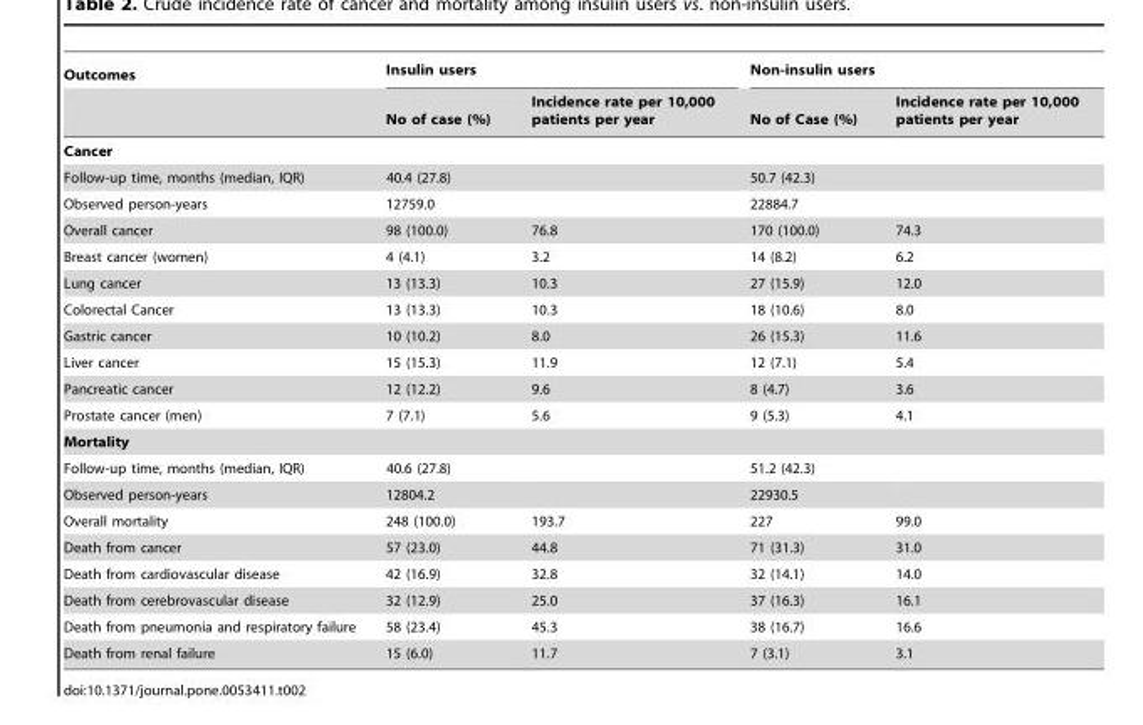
<table><thead><tr><td rowspan="2">Outcomes</td><td colspan="2">Insulin users</td><td colspan="2">Non-insulin users</td></tr><tr><td>No of case (%)</td><td>Incidence rate per 10,000 patients per year</td><td>No of Case (%)</td><td>Incidence rate per 10,000 patients per year</td></tr></thead><tbody><tr><td colspan="5">Cancer</td></tr><tr><td>Follow-up time, months (median, IQR)</td><td colspan="2">40.4 (27.8)</td><td colspan="2">50.7 (42.3)</td></tr><tr><td>Observed person-years</td><td>12759.0</td><td></td><td>22884.7</td><td></td></tr><tr><td>Overall cancer</td><td>98 (100.0)</td><td>76.8</td><td>170 (100.0)</td><td>74.3</td></tr><tr><td>Breast cancer (women)</td><td>4 (4.1)</td><td>3.2</td><td>14 (8.2)</td><td>6.2</td></tr><tr><td>Lung cancer</td><td>13 (13.3)</td><td>10.3</td><td>27 (15.9)</td><td>12.0</td></tr><tr><td>Colorectal Cancer</td><td>13 (13.3)</td><td>10.3</td><td>18 (10.6)</td><td>8.0</td></tr><tr><td>Gastric cancer</td><td>10 (10.2)</td><td>8.0</td><td>26 (15.3)</td><td>11.6</td></tr><tr><td>Liver cancer</td><td>15 (15.3)</td><td>11.9</td><td>12 (7.1)</td><td>5.4</td></tr><tr><td>Pancreatic cancer</td><td>12 (12.2)</td><td>9.6</td><td>8 (4.7)</td><td>3.6</td></tr><tr><td>Prostate cancer (men)</td><td>7 (7.1)</td><td>5.6</td><td>9 (5.3)</td><td>4.1</td></tr><tr><td colspan="5">Mortality</td></tr><tr><td>Follow-up time, months (median, IQR)</td><td colspan="2">40.6 (27.8)</td><td colspan="2">51.2 (42.3)</td></tr><tr><td>Observed person-years</td><td>12804.2</td><td></td><td>22930.5</td><td></td></tr><tr><td>Overall mortality</td><td>248 (100.0)</td><td>193.7</td><td>227</td><td>99.0</td></tr><tr><td>Death from cancer</td><td>57 (23.0)</td><td>44.8</td><td>71 (31.3)</td><td>31.0</td></tr><tr><td>Death from cardiovascular disease</td><td>42 (16.9)</td><td>32.8</td><td>32 (14.1)</td><td>14.0</td></tr><tr><td>Death from cerebrovascular disease</td><td>32 (12.9)</td><td>25.0</td><td>37 (16.3)</td><td>16.1</td></tr><tr><td>Death from pneumonia and respiratory failure</td><td>58 (23.4)</td><td>45.3</td><td>38 (16.7)</td><td>16.6</td></tr><tr><td>Death from renal failure</td><td>15 (6.0)</td><td>11.7</td><td>7 (3.1)</td><td>3.1</td></tr></tbody></table>